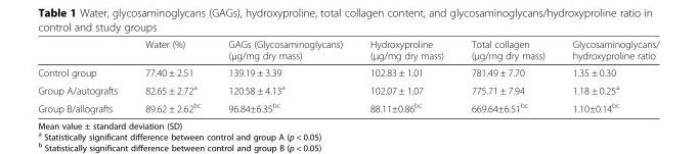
<table><thead><tr><td></td><td>Water (%)</td><td>GAGs (Glycosaminoglycans) (μg/mg dry mass)</td><td>Hydroxyproline (μg/mg dry mass)</td><td>Total collagen (μg/mg dry mass)</td><td>Glycosaminoglycans/ hydroxyproline ratio</td></tr></thead><tbody><tr><td>Control group</td><td>77.40 ± 2.51</td><td>139.19 ± 3.39</td><td>102.83 ± 1.01</td><td>781.49 ± 7.70</td><td>1.35 ± 0.30</td></tr><tr><td>Group A/autografts</td><td>82.65 ± 2.72<sup>a</sup></td><td>120.58 ± 4.13<sup>a</sup></td><td>102.07 ± 1.07</td><td>775.71 ± 7.94</td><td>1.18 ± 0.25<sup>a</sup></td></tr><tr><td>Group B/allografts</td><td>89.62 ± 2.62<sup>bc</sup></td><td>96.84±6.35<sup>bc</sup></td><td>88.11±0.86<sup>bc</sup></td><td>669.64±6.51<sup>bc</sup></td><td>1.10±0.14<sup>bc</sup></td></tr></tbody></table>